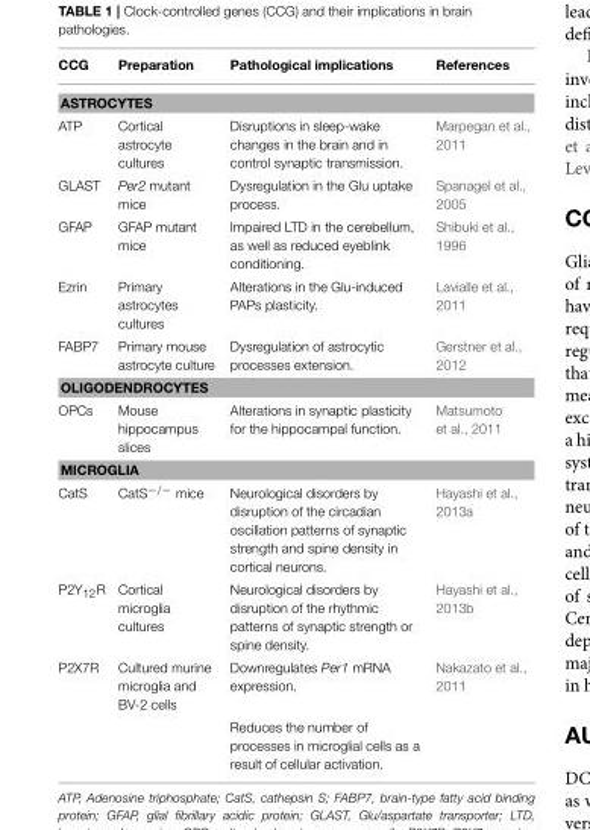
<table><thead><tr><td>CCG</td><td>Preparation</td><td>Pathological implications</td><td>References</td></tr></thead><tbody><tr><td colspan="4">ASTROCYTES</td></tr><tr><td>ATP</td><td>Cortical astrocyte cultures</td><td>Disruptions in sleep-wake changes in the brain and in control synaptic transmission.</td><td>Marpegan et al., 2011</td></tr><tr><td>GLAST</td><td>Per2 mutant mice</td><td>Dysregulation in the Glu uptake process.</td><td>Spanagel et al., 2005</td></tr><tr><td>GFAP</td><td>GFAP mutant mice</td><td>Impaired LTD in the cerebellum, as well as reduced eyeblink conditioning.</td><td>Shibuki et al., 1996</td></tr><tr><td>Ezrin</td><td>Primary astrocytes cultures</td><td>Alterations in the Glu-induced PAPs plasticity.</td><td>Lavialle et al., 2011</td></tr><tr><td>FABP7</td><td>Primary mouse astrocyte culture</td><td>Dysregulation of astrocytic processes extension.</td><td>Gerstner et al., 2012</td></tr><tr><td colspan="4">OLIGODENDROCYTES</td></tr><tr><td>OPCs</td><td>Mouse hippocampus slices</td><td>Alterations in synaptic plasticity for the hippocampal function.</td><td>Matsumoto et al., 2011</td></tr><tr><td colspan="4">MICROGLIA</td></tr><tr><td>CatS</td><td>CatS<sup>−/−</sup> mice</td><td>Neurological disorders by disruption of the circadian oscillation patterns of synaptic strength and spine density in cortical neurons.</td><td>Hayashi et al., 2013a</td></tr><tr><td>P2Y<sub>12</sub>R</td><td>Cortical microglia cultures</td><td>Neurological disorders by disruption of the rhythmic patterns of synaptic strength or spine density.</td><td>Hayashi et al., 2013b</td></tr><tr><td rowspan="2">P2X7R</td><td>Cultured murine microglia and BV-2 cells</td><td>Downregulates Per1 mRNA expression.</td><td>Nakazato et al., 2011</td></tr><tr><td></td><td>Reduces the number of processes in microglial cells as a result of cellular activation.</td><td></td></tr></tbody></table>